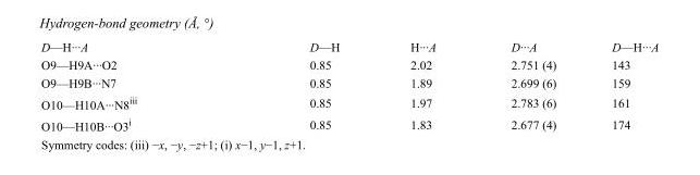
<table><tbody><tr><td>D—H···A</td><td>D—H</td><td>H···A</td><td>D···A</td><td>D—H···A</td></tr><tr><td>O9—H9A···O2</td><td>0.85</td><td>2.02</td><td>2.751 (4)</td><td>143</td></tr><tr><td>O9—H9B···N7</td><td>0.85</td><td>1.89</td><td>2.699 (6)</td><td>159</td></tr><tr><td>O10—H10A···N8<sup>iii</sup></td><td>0.85</td><td>1.97</td><td>2.783 (6)</td><td>161</td></tr><tr><td>O10—H10B···O3<sup>i</sup></td><td>0.85</td><td>1.83</td><td>2.677 (4)</td><td>174</td></tr></tbody></table>